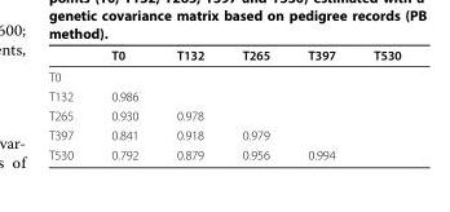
<table><thead><tr><td></td><td>T0</td><td>T132</td><td>T265</td><td>T397</td><td>T530</td></tr></thead><tbody><tr><td colspan="6">T0</td></tr><tr><td>T132</td><td>0.986</td><td></td><td></td><td></td><td></td></tr><tr><td>T265</td><td>0.930</td><td>0.978</td><td></td><td></td><td></td></tr><tr><td>T397</td><td>0.841</td><td>0.918</td><td>0.979</td><td></td><td></td></tr><tr><td>T530</td><td>0.792</td><td>0.879</td><td>0.956</td><td>0.994</td><td></td></tr></tbody></table>